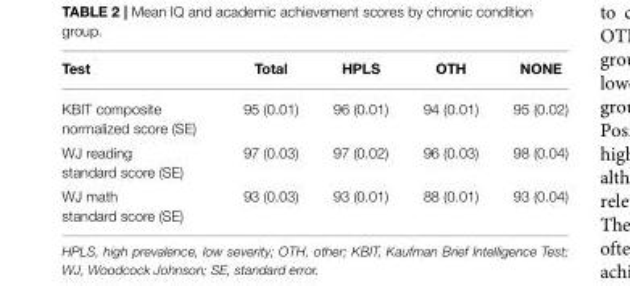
<table><thead><tr><td>Test</td><td>Total</td><td>HPLS</td><td>OTH</td><td>NONE</td></tr></thead><tbody><tr><td>KBIT composite normalized score (SE)</td><td>95 (0.01)</td><td>96 (0.01)</td><td>94 (0.01)</td><td>95 (0.02)</td></tr><tr><td>WJ reading standard score (SE)</td><td>97 (0.03)</td><td>97 (0.02)</td><td>96 (0.03)</td><td>98 (0.04)</td></tr><tr><td>WJ math standard score (SE)</td><td>93 (0.03)</td><td>93 (0.01)</td><td>88 (0.01)</td><td>93 (0.04)</td></tr></tbody></table>